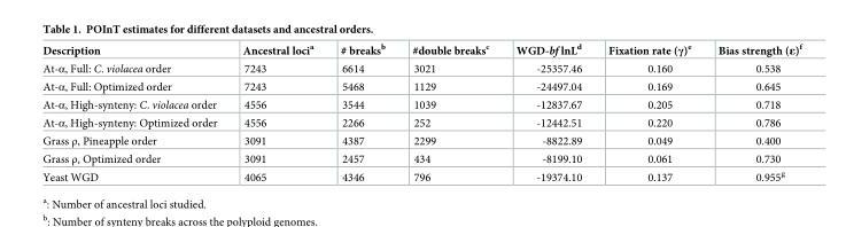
<table><thead><tr><td>Description</td><td>Ancestral loci<sup>a</sup></td><td># breaks<sup>b</sup></td><td>#double breaks<sup>c</sup></td><td>WGD-bf lnL<sup>d</sup></td><td>Fixation rate (γ)<sup>e</sup></td><td>Bias strength (ε)<sup>f</sup></td></tr></thead><tbody><tr><td>At-α, Full: C. violacea order</td><td>7243</td><td>6614</td><td>3021</td><td>-25357.46</td><td>0.160</td><td>0.538</td></tr><tr><td>At-α, Full: Optimized order</td><td>7243</td><td>5468</td><td>1129</td><td>-24497.04</td><td>0.169</td><td>0.645</td></tr><tr><td>At-α, High-synteny: C. violacea order</td><td>4556</td><td>3544</td><td>1039</td><td>-12837.67</td><td>0.205</td><td>0.718</td></tr><tr><td>At-α, High-synteny: Optimized order</td><td>4556</td><td>2266</td><td>252</td><td>-12442.51</td><td>0.220</td><td>0.786</td></tr><tr><td>Grass ρ, Pineapple order</td><td>3091</td><td>4387</td><td>2299</td><td>-8822.89</td><td>0.049</td><td>0.400</td></tr><tr><td>Grass ρ, Optimized order</td><td>3091</td><td>2457</td><td>434</td><td>-8199.10</td><td>0.061</td><td>0.730</td></tr><tr><td>Yeast WGD</td><td>4065</td><td>4346</td><td>796</td><td>-19374.10</td><td>0.137</td><td>0.955<sup>g</sup></td></tr></tbody></table>